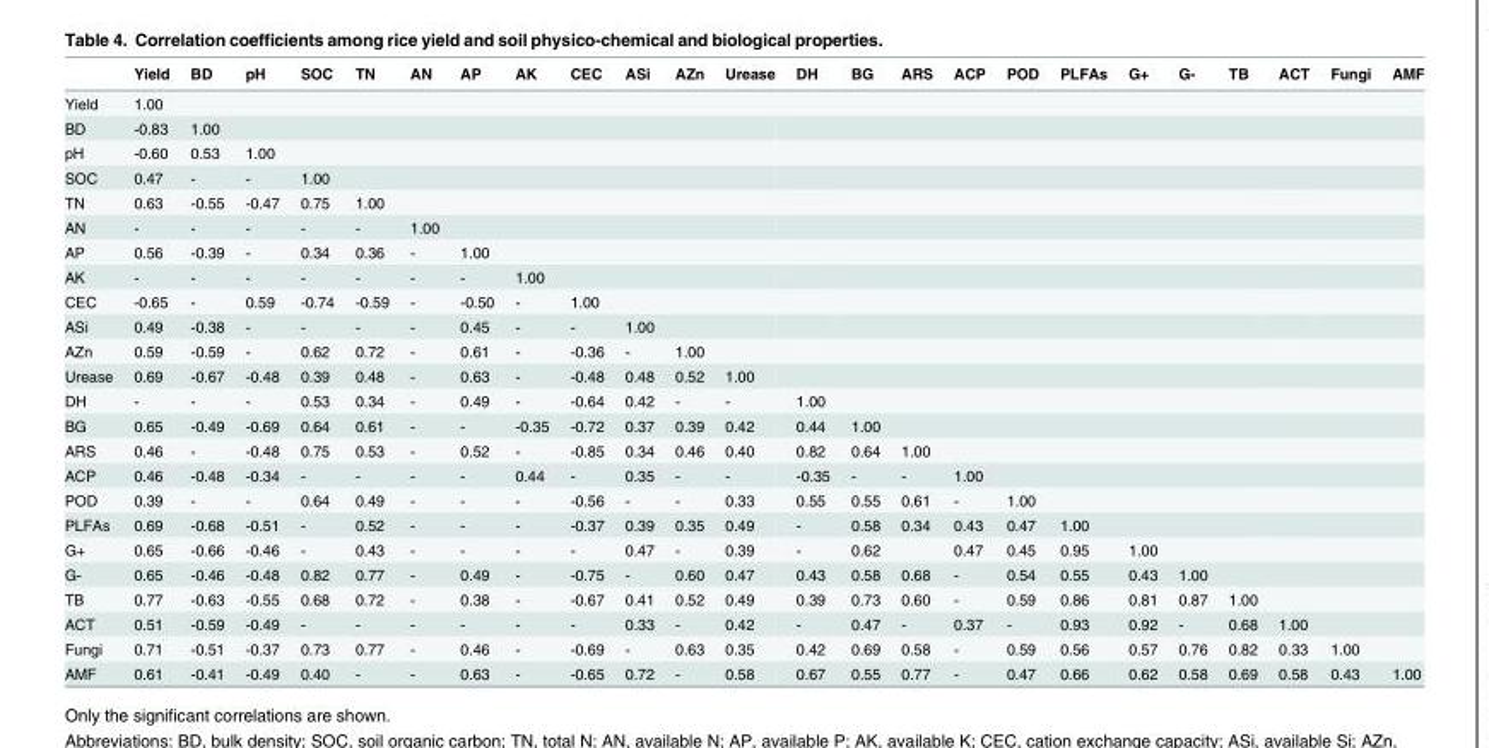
<table><thead><tr><td></td><td>Yield</td><td>BD</td><td>pH</td><td>SOC</td><td>TN</td><td>AN</td><td>AP</td><td>AK</td><td>CEC</td><td>ASi</td><td>AZn</td><td>Urease</td><td>DH</td><td>BG</td><td>ARS</td><td>ACP</td><td>POD</td><td>PLFAs</td><td>G+</td><td>G-</td><td>TB</td><td>ACT</td><td>Fungi</td><td>AMF</td></tr></thead><tbody><tr><td>Yield</td><td>1.00</td><td></td><td></td><td></td><td></td><td></td><td></td><td></td><td></td><td></td><td></td><td></td><td></td><td></td><td></td><td></td><td></td><td></td><td></td><td></td><td></td><td></td><td></td><td></td></tr><tr><td>BD</td><td>-0.83</td><td>1.00</td><td></td><td></td><td></td><td></td><td></td><td></td><td></td><td></td><td></td><td></td><td></td><td></td><td></td><td></td><td></td><td></td><td></td><td></td><td></td><td></td><td></td><td></td></tr><tr><td>pH</td><td>-0.60</td><td>0.53</td><td>1.00</td><td></td><td></td><td></td><td></td><td></td><td></td><td></td><td></td><td></td><td></td><td></td><td></td><td></td><td></td><td></td><td></td><td></td><td></td><td></td><td></td><td></td></tr><tr><td>SOC</td><td>0.47</td><td>-</td><td>-</td><td>1.00</td><td></td><td></td><td></td><td></td><td></td><td></td><td></td><td></td><td></td><td></td><td></td><td></td><td></td><td></td><td></td><td></td><td></td><td></td><td></td><td></td></tr><tr><td>TN</td><td>0.63</td><td>-0.55</td><td>-0.47</td><td>0.75</td><td>1.00</td><td></td><td></td><td></td><td></td><td></td><td></td><td></td><td></td><td></td><td></td><td></td><td></td><td></td><td></td><td></td><td></td><td></td><td></td><td></td></tr><tr><td>AN</td><td>-</td><td>-</td><td>-</td><td>-</td><td>-</td><td>1.00</td><td></td><td></td><td></td><td></td><td></td><td></td><td></td><td></td><td></td><td></td><td></td><td></td><td></td><td></td><td></td><td></td><td></td><td></td></tr><tr><td>AP</td><td>0.56</td><td>-0.39</td><td>-</td><td>0.34</td><td>0.36</td><td>-</td><td>1.00</td><td></td><td></td><td></td><td></td><td></td><td></td><td></td><td></td><td></td><td></td><td></td><td></td><td></td><td></td><td></td><td></td><td></td></tr><tr><td>AK</td><td>-</td><td>-</td><td>-</td><td>-</td><td>-</td><td>-</td><td>-</td><td>1.00</td><td></td><td></td><td></td><td></td><td></td><td></td><td></td><td></td><td></td><td></td><td></td><td></td><td></td><td></td><td></td><td></td></tr><tr><td>CEC</td><td>-0.65</td><td>-</td><td>0.59</td><td>-0.74</td><td>-0.59</td><td>-</td><td>-0.50</td><td>-</td><td>1.00</td><td></td><td></td><td></td><td></td><td></td><td></td><td></td><td></td><td></td><td></td><td></td><td></td><td></td><td></td><td></td></tr><tr><td>ASi</td><td>0.49</td><td>-0.38</td><td>-</td><td>-</td><td>-</td><td>-</td><td>0.45</td><td>-</td><td>-</td><td>1.00</td><td></td><td></td><td></td><td></td><td></td><td></td><td></td><td></td><td></td><td></td><td></td><td></td><td></td><td></td></tr><tr><td>AZn</td><td>0.59</td><td>-0.59</td><td>-</td><td>0.62</td><td>0.72</td><td>-</td><td>0.61</td><td>-</td><td>-0.36</td><td>-</td><td>1.00</td><td></td><td></td><td></td><td></td><td></td><td></td><td></td><td></td><td></td><td></td><td></td><td></td><td></td></tr><tr><td>Urease</td><td>0.69</td><td>-0.67</td><td>-0.48</td><td>0.39</td><td>0.48</td><td>-</td><td>0.63</td><td>-</td><td>-0.48</td><td>0.48</td><td>0.52</td><td>1.00</td><td></td><td></td><td></td><td></td><td></td><td></td><td></td><td></td><td></td><td></td><td></td><td></td></tr><tr><td>DH</td><td>-</td><td>-</td><td>-</td><td>0.53</td><td>0.34</td><td>-</td><td>0.49</td><td>-</td><td>-0.64</td><td>0.42</td><td>-</td><td>-</td><td>1.00</td><td></td><td></td><td></td><td></td><td></td><td></td><td></td><td></td><td></td><td></td><td></td></tr><tr><td>BG</td><td>0.65</td><td>-0.49</td><td>-0.69</td><td>0.64</td><td>0.61</td><td>-</td><td>-</td><td>-0.35</td><td>-0.72</td><td>0.37</td><td>0.39</td><td>0.42</td><td>0.44</td><td>1.00</td><td></td><td></td><td></td><td></td><td></td><td></td><td></td><td></td><td></td><td></td></tr><tr><td>ARS</td><td>0.46</td><td>-</td><td>-0.48</td><td>0.75</td><td>0.53</td><td>-</td><td>0.52</td><td>-</td><td>-0.85</td><td>0.34</td><td>0.46</td><td>0.40</td><td>0.82</td><td>0.64</td><td>1.00</td><td></td><td></td><td></td><td></td><td></td><td></td><td></td><td></td><td></td></tr><tr><td>ACP</td><td>0.46</td><td>-0.48</td><td>-0.34</td><td>-</td><td>-</td><td>-</td><td>-</td><td>0.44</td><td>-</td><td>0.35</td><td>-</td><td>-</td><td>-0.35</td><td>-</td><td>-</td><td>1.00</td><td></td><td></td><td></td><td></td><td></td><td></td><td></td><td></td></tr><tr><td>POD</td><td>0.39</td><td>-</td><td>-</td><td>0.64</td><td>0.49</td><td>-</td><td>-</td><td>-</td><td>-0.56</td><td>-</td><td>-</td><td>0.33</td><td>0.55</td><td>0.55</td><td>0.61</td><td>-</td><td>1.00</td><td></td><td></td><td></td><td></td><td></td><td></td><td></td></tr><tr><td>PLFAs</td><td>0.69</td><td>-0.68</td><td>-0.51</td><td>-</td><td>0.52</td><td>-</td><td>-</td><td>-</td><td>-0.37</td><td>0.39</td><td>0.35</td><td>0.49</td><td>-</td><td>0.58</td><td>0.34</td><td>0.43</td><td>0.47</td><td>1.00</td><td></td><td></td><td></td><td></td><td></td><td></td></tr><tr><td>G+</td><td>0.65</td><td>-0.66</td><td>-0.46</td><td>-</td><td>0.43</td><td>-</td><td>-</td><td>-</td><td>-</td><td>0.47</td><td>-</td><td>0.39</td><td>-</td><td>0.62</td><td></td><td>0.47</td><td>0.45</td><td>0.95</td><td>1.00</td><td></td><td></td><td></td><td></td><td></td></tr><tr><td>G-</td><td>0.65</td><td>-0.46</td><td>-0.48</td><td>0.82</td><td>0.77</td><td>-</td><td>0.49</td><td>-</td><td>-0.75</td><td>-</td><td>0.60</td><td>0.47</td><td>0.43</td><td>0.58</td><td>0.68</td><td>-</td><td>0.54</td><td>0.55</td><td>0.43</td><td>1.00</td><td></td><td></td><td></td><td></td></tr><tr><td>TB</td><td>0.77</td><td>-0.63</td><td>-0.55</td><td>0.68</td><td>0.72</td><td>-</td><td>0.38</td><td>-</td><td>-0.67</td><td>0.41</td><td>0.52</td><td>0.49</td><td>0.39</td><td>0.73</td><td>0.60</td><td>-</td><td>0.59</td><td>0.86</td><td>0.81</td><td>0.87</td><td>1.00</td><td></td><td></td><td></td></tr><tr><td>ACT</td><td>0.51</td><td>-0.59</td><td>-0.49</td><td>-</td><td>-</td><td>-</td><td>-</td><td>-</td><td>-</td><td>0.33</td><td>-</td><td>0.42</td><td>-</td><td>0.47</td><td>-</td><td>0.37</td><td>-</td><td>0.93</td><td>0.92</td><td>-</td><td>0.68</td><td>1.00</td><td></td><td></td></tr><tr><td>Fungi</td><td>0.71</td><td>-0.51</td><td>-0.37</td><td>0.73</td><td>0.77</td><td>-</td><td>0.46</td><td>-</td><td>-0.69</td><td>-</td><td>0.63</td><td>0.35</td><td>0.42</td><td>0.69</td><td>0.58</td><td>-</td><td>0.59</td><td>0.56</td><td>0.57</td><td>0.76</td><td>0.82</td><td>0.33</td><td>1.00</td><td></td></tr><tr><td>AMF</td><td>0.61</td><td>-0.41</td><td>-0.49</td><td>0.40</td><td>-</td><td>-</td><td>0.63</td><td>-</td><td>-0.65</td><td>0.72</td><td>-</td><td>0.58</td><td>0.67</td><td>0.55</td><td>0.77</td><td>-</td><td>0.47</td><td>0.66</td><td>0.62</td><td>0.58</td><td>0.69</td><td>0.58</td><td>0.43</td><td>1.00</td></tr></tbody></table>